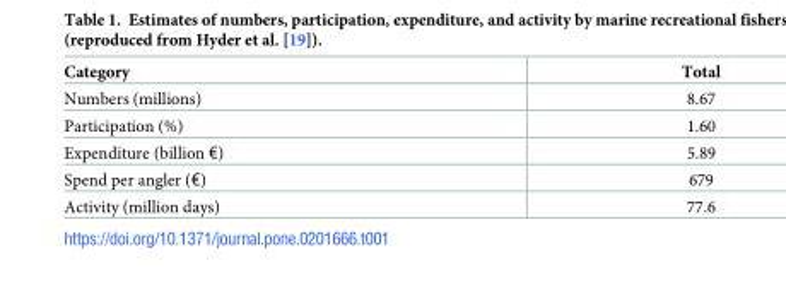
<table><thead><tr><td>Category</td><td>Total</td></tr></thead><tbody><tr><td>Numbers (millions)</td><td>8.67</td></tr><tr><td>Participation (%)</td><td>1.60</td></tr><tr><td>Expenditure (billion €)</td><td>5.89</td></tr><tr><td>Spend per angler (€)</td><td>679</td></tr><tr><td>Activity (million days)</td><td>77.6</td></tr></tbody></table>